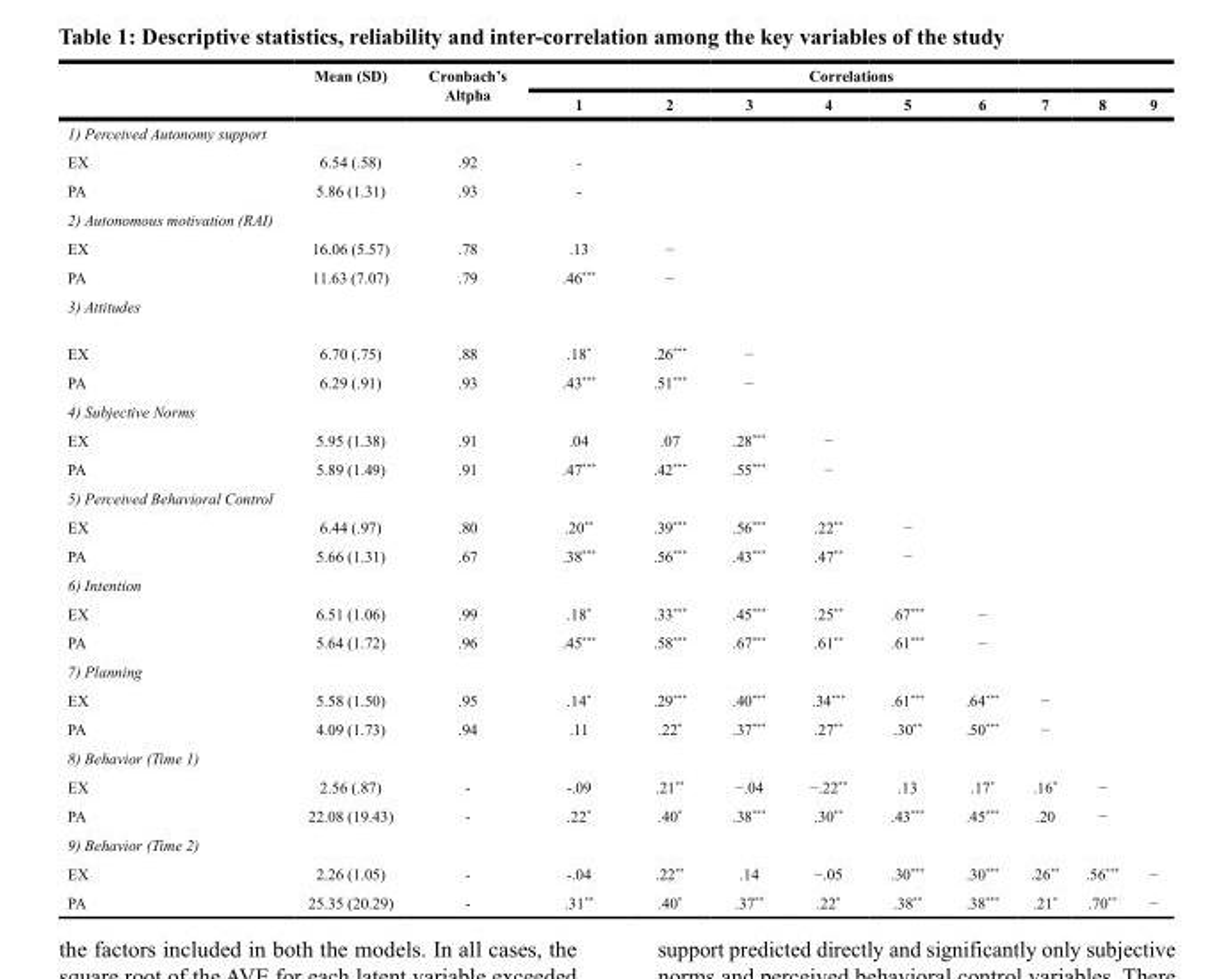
<table><thead><tr><td rowspan="2"></td><td rowspan="2">Mean (SD)</td><td rowspan="2">Cronbach’s Altpha</td><td colspan="9">Correlations</td></tr><tr><td>1</td><td>2</td><td>3</td><td>4</td><td>5</td><td>6</td><td>7</td><td>8</td><td>9</td></tr></thead><tbody><tr><td colspan="12">1) Perceived Autonomy support</td></tr><tr><td>EX</td><td>6.54 (.58)</td><td>.92</td><td>-</td><td></td><td></td><td></td><td></td><td></td><td></td><td></td><td></td></tr><tr><td>PA</td><td>5.86 (1.31)</td><td>.93</td><td>-</td><td></td><td></td><td></td><td></td><td></td><td></td><td></td><td></td></tr><tr><td colspan="12">2) Autonomous motivation (RAI)</td></tr><tr><td>EX</td><td>16.06 (5.57)</td><td>.78</td><td>.13</td><td>−</td><td></td><td></td><td></td><td></td><td></td><td></td><td></td></tr><tr><td>PA</td><td>11.63 (7.07)</td><td>.79</td><td>.46***</td><td>−</td><td></td><td></td><td></td><td></td><td></td><td></td><td></td></tr><tr><td colspan="12">3) Attitudes</td></tr><tr><td>EX</td><td>6.70 (.75)</td><td>.88</td><td>.18*</td><td>.26***</td><td>−</td><td></td><td></td><td></td><td></td><td></td><td></td></tr><tr><td>PA</td><td>6.29 (.91)</td><td>.93</td><td>.43***</td><td>.51***</td><td>−</td><td></td><td></td><td></td><td></td><td></td><td></td></tr><tr><td colspan="12">4) Subjective Norms</td></tr><tr><td>EX</td><td>5.95 (1.38)</td><td>.91</td><td>.04</td><td>.07</td><td>.28***</td><td>−</td><td></td><td></td><td></td><td></td><td></td></tr><tr><td>PA</td><td>5.89 (1.49)</td><td>.91</td><td>.47***</td><td>.42***</td><td>.55***</td><td>−</td><td></td><td></td><td></td><td></td><td></td></tr><tr><td colspan="12">5) Perceived Behavioral Control</td></tr><tr><td>EX</td><td>6.44 (.97)</td><td>.80</td><td>.20**</td><td>.39***</td><td>.56***</td><td>.22**</td><td>−</td><td></td><td></td><td></td><td></td></tr><tr><td>PA</td><td>5.66 (1.31)</td><td>.67</td><td>.38***</td><td>.56***</td><td>.43***</td><td>.47**</td><td>−</td><td></td><td></td><td></td><td></td></tr><tr><td colspan="12">6) Intention</td></tr><tr><td>EX</td><td>6.51 (1.06)</td><td>.99</td><td>.18*</td><td>.33***</td><td>.45***</td><td>.25**</td><td>.67***</td><td>−</td><td></td><td></td><td></td></tr><tr><td>PA</td><td>5.64 (1.72)</td><td>.96</td><td>.45***</td><td>.58***</td><td>.67***</td><td>.61**</td><td>.61***</td><td>−</td><td></td><td></td><td></td></tr><tr><td colspan="12">7) Planning</td></tr><tr><td>EX</td><td>5.58 (1.50)</td><td>.95</td><td>.14*</td><td>.29***</td><td>.40***</td><td>.34***</td><td>.61***</td><td>.64***</td><td>−</td><td></td><td></td></tr><tr><td>PA</td><td>4.09 (1.73)</td><td>.94</td><td>.11</td><td>.22*</td><td>.37***</td><td>.27**</td><td>.30**</td><td>.50***</td><td>−</td><td></td><td></td></tr><tr><td colspan="12">8) Behavior (Time 1)</td></tr><tr><td>EX</td><td>2.56 (.87)</td><td>-</td><td>-.09</td><td>.21**</td><td>−.04</td><td>−.22**</td><td>.13</td><td>.17*</td><td>.16*</td><td>−</td><td></td></tr><tr><td>PA</td><td>22.08 (19.43)</td><td>-</td><td>.22*</td><td>.40*</td><td>.38***</td><td>.30**</td><td>.43***</td><td>.45***</td><td>.20</td><td>−</td><td></td></tr><tr><td colspan="12">9) Behavior (Time 2)</td></tr><tr><td>EX</td><td>2.26 (1.05)</td><td>-</td><td>-.04</td><td>.22**</td><td>.14</td><td>−.05</td><td>.30***</td><td>.30***</td><td>.26**</td><td>.56***</td><td>−</td></tr><tr><td>PA</td><td>25.35 (20.29)</td><td>-</td><td>.31**</td><td>.40*</td><td>.37**</td><td>.22*</td><td>.38**</td><td>.38***</td><td>.21*</td><td>.70**</td><td>−</td></tr></tbody></table>